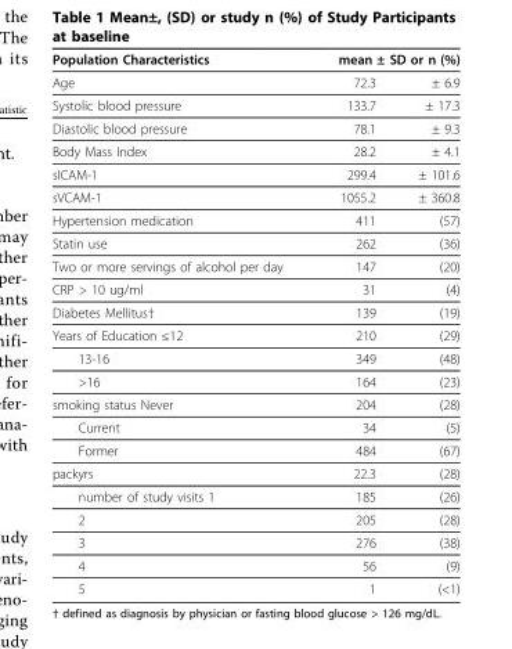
<table><thead><tr><td rowspan="2">Population Characteristics Age</td><td colspan="2">mean ± SD or n (%)</td></tr><tr><td>72.3</td><td>± 6.9</td></tr></thead><tbody><tr><td>Systolic blood pressure</td><td>133.7</td><td>± 17.3</td></tr><tr><td>Diastolic blood pressure</td><td>78.1</td><td>± 9.3</td></tr><tr><td>Body Mass Index</td><td>28.2</td><td>± 4.1</td></tr><tr><td>sICAM-1</td><td>299.4</td><td>± 101.6</td></tr><tr><td>sVCAM-1</td><td>1055.2</td><td>± 360.8</td></tr><tr><td>Hypertension medication</td><td>411</td><td>(57)</td></tr><tr><td>Statin use</td><td>262</td><td>(36)</td></tr><tr><td>Two or more servings of alcohol per day</td><td>147</td><td>(20)</td></tr><tr><td>CRP &gt; 10 ug/ml</td><td>31</td><td>(4)</td></tr><tr><td>Diabetes Mellitus†</td><td>139</td><td>(19)</td></tr><tr><td>Years of Education ≤12</td><td>210</td><td>(29)</td></tr><tr><td>13-16</td><td>349</td><td>(48)</td></tr><tr><td>&gt;16</td><td>164</td><td>(23)</td></tr><tr><td>smoking status Never</td><td>204</td><td>(28)</td></tr><tr><td>Current</td><td>34</td><td>(5)</td></tr><tr><td>Former</td><td>484</td><td>(67)</td></tr><tr><td>packyrs</td><td>22.3</td><td>(28)</td></tr><tr><td>number of study visits 1</td><td>185</td><td>(26)</td></tr><tr><td>2</td><td>205</td><td>(28)</td></tr><tr><td>3</td><td>276</td><td>(38)</td></tr><tr><td>4</td><td>56</td><td>(9)</td></tr><tr><td>5</td><td>1</td><td>(&lt;1)</td></tr></tbody></table>